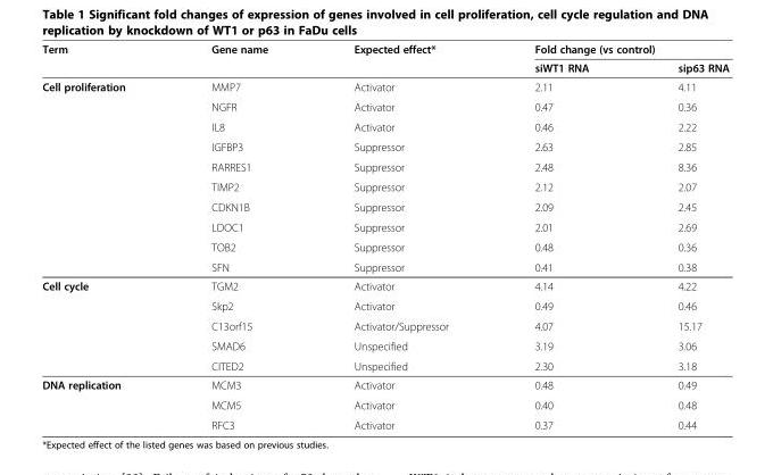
<table><thead><tr><td rowspan="2">Term</td><td rowspan="2">Gene name</td><td rowspan="2">Expected effect*</td><td colspan="2">Fold change (vs control)</td></tr><tr><td>siWT1 RNA</td><td>sip63 RNA</td></tr></thead><tbody><tr><td rowspan="10">Cell proliferation</td><td>MMP7</td><td>Activator</td><td>2.11</td><td>4.11</td></tr><tr><td>NGFR</td><td>Activator</td><td>0.47</td><td>0.36</td></tr><tr><td>IL8</td><td>Activator</td><td>0.46</td><td>2.22</td></tr><tr><td>IGFBP3</td><td>Suppressor</td><td>2.63</td><td>2.85</td></tr><tr><td>RARRES1</td><td>Suppressor</td><td>2.48</td><td>8.36</td></tr><tr><td>TIMP2</td><td>Suppressor</td><td>2.12</td><td>2.07</td></tr><tr><td>CDKN1B</td><td>Suppressor</td><td>2.09</td><td>2.45</td></tr><tr><td>LDOC1</td><td>Suppressor</td><td>2.01</td><td>2.69</td></tr><tr><td>TOB2</td><td>Suppressor</td><td>0.48</td><td>0.36</td></tr><tr><td>SFN</td><td>Suppressor</td><td>0.41</td><td>0.38</td></tr><tr><td rowspan="5">Cell cycle</td><td>TGM2</td><td>Activator</td><td>4.14</td><td>4.22</td></tr><tr><td>Skp2</td><td>Activator</td><td>0.49</td><td>0.46</td></tr><tr><td>C13orf15</td><td>Activator/Suppressor</td><td>4.07</td><td>15.17</td></tr><tr><td>SMAD6</td><td>Unspecified</td><td>3.19</td><td>3.06</td></tr><tr><td>CITED2</td><td>Unspecified</td><td>2.30</td><td>3.18</td></tr><tr><td rowspan="3">DNA replication</td><td>MCM3</td><td>Activator</td><td>0.48</td><td>0.49</td></tr><tr><td>MCM5</td><td>Activator</td><td>0.40</td><td>0.48</td></tr><tr><td>RFC3</td><td>Activator</td><td>0.37</td><td>0.44</td></tr></tbody></table>